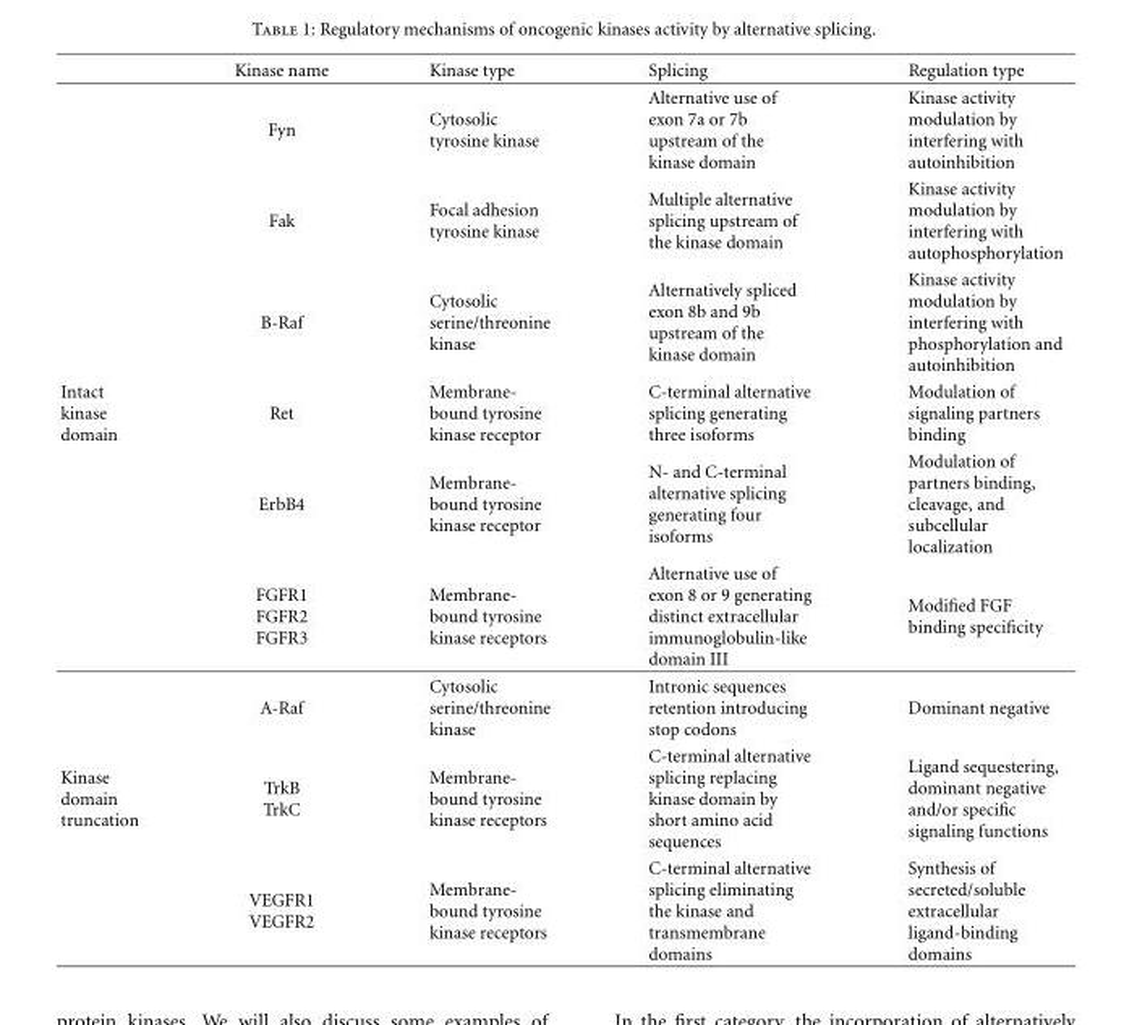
<table><thead><tr><td></td><td>Kinase name</td><td>Kinase type</td><td>Splicing</td><td>Regulation type</td></tr></thead><tbody><tr><td></td><td>Fyn</td><td>Cytosolic tyrosine kinase</td><td>Alternative use of exon 7a or 7b upstream of the kinase domain</td><td>Kinase activity modulation by interfering with autoinhibition</td></tr><tr><td></td><td>Fak</td><td>Focal adhesion tyrosine kinase</td><td>Multiple alternative splicing upstream of the kinase domain</td><td>Kinase activity modulation by interfering with autophosphorylation</td></tr><tr><td></td><td>B-Raf</td><td>Cytosolic serine/threonine kinase</td><td>Alternatively spliced exon 8b and 9b upstream of the kinase domain</td><td>Kinase activity modulation by interfering with phosphorylation and autoinhibition</td></tr><tr><td rowspan="4">Intact kinase domain</td><td>Ret</td><td>Membrane- bound tyrosine kinase receptor</td><td>C-terminal alternative splicing generating three isoforms</td><td>Modulation of signaling partners binding</td></tr><tr><td>ErbB4</td><td>Membrane- bound tyrosine kinase receptor</td><td>N- and C-terminal alternative splicing generating four isoforms</td><td>Modulation of partners binding, cleavage, and subcellular localization</td></tr><tr><td>FGFR1 FGFR2 FGFR3</td><td>Membrane- bound tyrosine kinase receptors</td><td>Alternative use of exon 8 or 9 generating distinct extracellular immunoglobulin-like domain III</td><td>Modified FGF binding specificity</td></tr><tr><td>A-Raf</td><td>Cytosolic serine/threonine kinase</td><td>Intronic sequences retention introducing stop codons</td><td>Dominant negative</td></tr><tr><td rowspan="2">Kinase domain truncation</td><td>TrkB TrkC</td><td>Membrane- bound tyrosine kinase receptors</td><td>C-terminal alternative splicing replacing kinase domain by short amino acid sequences</td><td>Ligand sequestering, dominant negative and/or specific signaling functions</td></tr><tr><td>VEGFR1 VEGFR2</td><td>Membrane- bound tyrosine kinase receptors</td><td>C-terminal alternative splicing eliminating the kinase and transmembrane domains</td><td>Synthesis of secreted/soluble extracellular ligand-binding domains</td></tr></tbody></table>